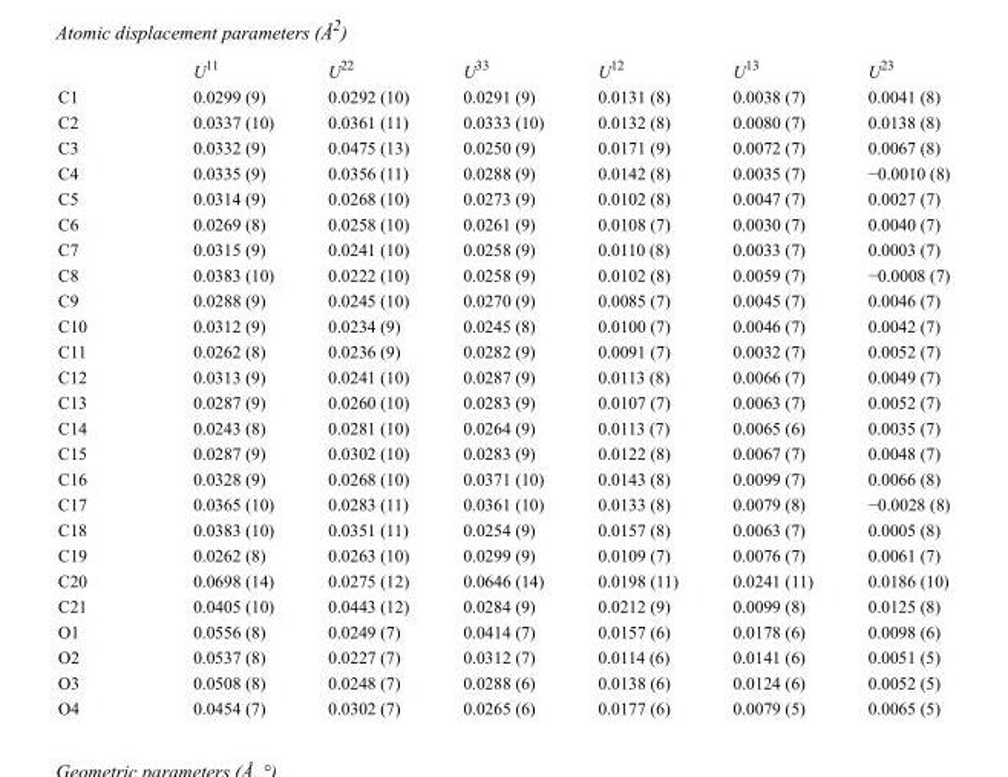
<table><thead><tr><td></td><td>U<sup>11</sup></td><td>U<sup>22</sup></td><td>U<sup>33</sup></td><td>U<sup>12</sup></td><td>U<sup>13</sup></td><td>U<sup>23</sup></td></tr></thead><tbody><tr><td>C1</td><td>0.0299 (9)</td><td>0.0292 (10)</td><td>0.0291 (9)</td><td>0.0131 (8)</td><td>0.0038 (7)</td><td>0.0041 (8)</td></tr><tr><td>C2</td><td>0.0337 (10)</td><td>0.0361 (11)</td><td>0.0333 (10)</td><td>0.0132 (8)</td><td>0.0080 (7)</td><td>0.0138 (8)</td></tr><tr><td>C3</td><td>0.0332 (9)</td><td>0.0475 (13)</td><td>0.0250 (9)</td><td>0.0171 (9)</td><td>0.0072 (7)</td><td>0.0067 (8)</td></tr><tr><td>C4</td><td>0.0335 (9)</td><td>0.0356 (11)</td><td>0.0288 (9)</td><td>0.0142 (8)</td><td>0.0035 (7)</td><td>−0.0010 (8)</td></tr><tr><td>C5</td><td>0.0314 (9)</td><td>0.0268 (10)</td><td>0.0273 (9)</td><td>0.0102 (8)</td><td>0.0047 (7)</td><td>0.0027 (7)</td></tr><tr><td>C6</td><td>0.0269 (8)</td><td>0.0258 (10)</td><td>0.0261 (9)</td><td>0.0108 (7)</td><td>0.0030 (7)</td><td>0.0040 (7)</td></tr><tr><td>C7</td><td>0.0315 (9)</td><td>0.0241 (10)</td><td>0.0258 (9)</td><td>0.0110 (8)</td><td>0.0033 (7)</td><td>0.0003 (7)</td></tr><tr><td>C8</td><td>0.0383 (10)</td><td>0.0222 (10)</td><td>0.0258 (9)</td><td>0.0102 (8)</td><td>0.0059 (7)</td><td>−0.0008 (7)</td></tr><tr><td>C9</td><td>0.0288 (9)</td><td>0.0245 (10)</td><td>0.0270 (9)</td><td>0.0085 (7)</td><td>0.0045 (7)</td><td>0.0046 (7)</td></tr><tr><td>C10</td><td>0.0312 (9)</td><td>0.0234 (9)</td><td>0.0245 (8)</td><td>0.0100 (7)</td><td>0.0046 (7)</td><td>0.0042 (7)</td></tr><tr><td>C11</td><td>0.0262 (8)</td><td>0.0236 (9)</td><td>0.0282 (9)</td><td>0.0091 (7)</td><td>0.0032 (7)</td><td>0.0052 (7)</td></tr><tr><td>C12</td><td>0.0313 (9)</td><td>0.0241 (10)</td><td>0.0287 (9)</td><td>0.0113 (8)</td><td>0.0066 (7)</td><td>0.0049 (7)</td></tr><tr><td>C13</td><td>0.0287 (9)</td><td>0.0260 (10)</td><td>0.0283 (9)</td><td>0.0107 (7)</td><td>0.0063 (7)</td><td>0.0052 (7)</td></tr><tr><td>C14</td><td>0.0243 (8)</td><td>0.0281 (10)</td><td>0.0264 (9)</td><td>0.0113 (7)</td><td>0.0065 (6)</td><td>0.0035 (7)</td></tr><tr><td>C15</td><td>0.0287 (9)</td><td>0.0302 (10)</td><td>0.0283 (9)</td><td>0.0122 (8)</td><td>0.0067 (7)</td><td>0.0048 (7)</td></tr><tr><td>C16</td><td>0.0328 (9)</td><td>0.0268 (10)</td><td>0.0371 (10)</td><td>0.0143 (8)</td><td>0.0099 (7)</td><td>0.0066 (8)</td></tr><tr><td>C17</td><td>0.0365 (10)</td><td>0.0283 (11)</td><td>0.0361 (10)</td><td>0.0133 (8)</td><td>0.0079 (8)</td><td>−0.0028 (8)</td></tr><tr><td>C18</td><td>0.0383 (10)</td><td>0.0351 (11)</td><td>0.0254 (9)</td><td>0.0157 (8)</td><td>0.0063 (7)</td><td>0.0005 (8)</td></tr><tr><td>C19</td><td>0.0262 (8)</td><td>0.0263 (10)</td><td>0.0299 (9)</td><td>0.0109 (7)</td><td>0.0076 (7)</td><td>0.0061 (7)</td></tr><tr><td>C20</td><td>0.0698 (14)</td><td>0.0275 (12)</td><td>0.0646 (14)</td><td>0.0198 (11)</td><td>0.0241 (11)</td><td>0.0186 (10)</td></tr><tr><td>C21</td><td>0.0405 (10)</td><td>0.0443 (12)</td><td>0.0284 (9)</td><td>0.0212 (9)</td><td>0.0099 (8)</td><td>0.0125 (8)</td></tr><tr><td>O1</td><td>0.0556 (8)</td><td>0.0249 (7)</td><td>0.0414 (7)</td><td>0.0157 (6)</td><td>0.0178 (6)</td><td>0.0098 (6)</td></tr><tr><td>O2</td><td>0.0537 (8)</td><td>0.0227 (7)</td><td>0.0312 (7)</td><td>0.0114 (6)</td><td>0.0141 (6)</td><td>0.0051 (5)</td></tr><tr><td>O3</td><td>0.0508 (8)</td><td>0.0248 (7)</td><td>0.0288 (6)</td><td>0.0138 (6)</td><td>0.0124 (6)</td><td>0.0052 (5)</td></tr><tr><td>O4</td><td>0.0454 (7)</td><td>0.0302 (7)</td><td>0.0265 (6)</td><td>0.0177 (6)</td><td>0.0079 (5)</td><td>0.0065 (5)</td></tr></tbody></table>